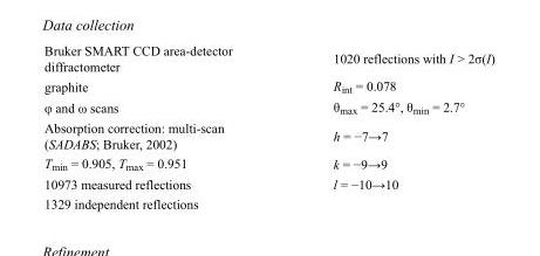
<table><tbody><tr><td>Bruker SMART CCD area-detector diffractometer</td><td>1020 reflections with I &gt; 2σ(I)</td></tr><tr><td>graphite</td><td>R<sub>int</sub> = 0.078</td></tr><tr><td>φ and ω scans</td><td>θ<sub>max</sub> = 25.4°, θ<sub>min</sub> = 2.7°</td></tr><tr><td>Absorption correction: multi-scan (SADABS; Bruker, 2002)</td><td>h = −7→7</td></tr><tr><td>T<sub>min</sub> = 0.905, T<sub>max</sub> = 0.951</td><td>k = −9→9</td></tr><tr><td>10973 measured reflections</td><td>l = −10→10</td></tr><tr><td>1329 independent reflections</td><td></td></tr></tbody></table>